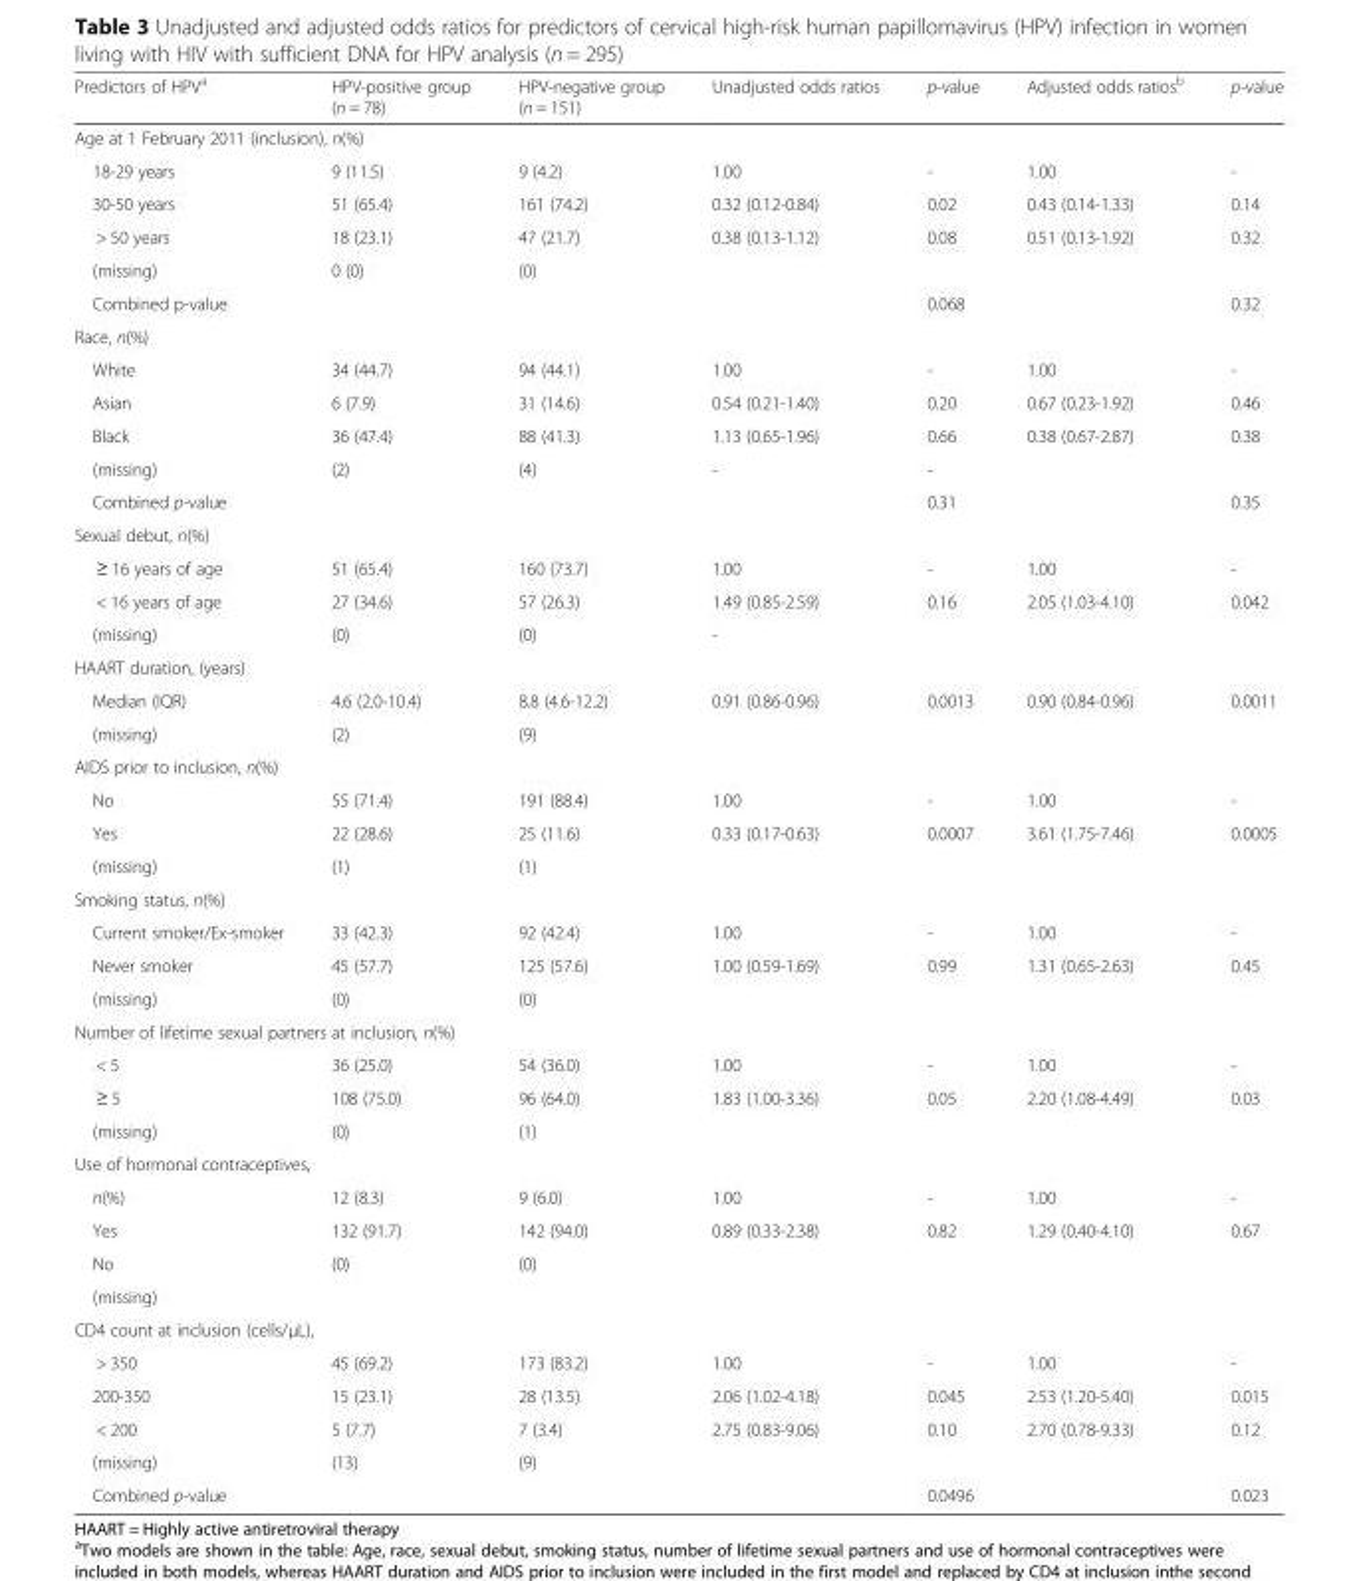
<table><thead><tr><td>Predictors of HPV<sup>a</sup></td><td>HPV-positive group (n = 78)</td><td>HPV-negative group (n = 151)</td><td>Unadjusted odds ratios</td><td>p-value</td><td>Adjusted odds ratios<sup>b</sup></td><td>p-value</td></tr></thead><tbody><tr><td colspan="7">Age at 1 February 2011 (inclusion), n(%)</td></tr><tr><td>18-29 years</td><td>9 (11.5)</td><td>9 (4.2)</td><td>1.00</td><td>-</td><td>1.00</td><td>-</td></tr><tr><td>30-50 years</td><td>51 (65.4)</td><td>161 (74.2)</td><td>0.32 (0.12-0.84)</td><td>0.02</td><td>0.43 (0.14-1.33)</td><td>0.14</td></tr><tr><td>&gt; 50 years</td><td>18 (23.1)</td><td>47 (21.7)</td><td>0.38 (0.13-1.12)</td><td>0.08</td><td>0.51 (0.13-1.92)</td><td>0.32</td></tr><tr><td>(missing)</td><td>0 (0)</td><td>(0)</td><td></td><td></td><td></td><td></td></tr><tr><td>Combined p-value</td><td></td><td></td><td></td><td>0.068</td><td></td><td>0.32</td></tr><tr><td colspan="7">Race, n(%)</td></tr><tr><td>White</td><td>34 (44.7)</td><td>94 (44.1)</td><td>1.00</td><td>-</td><td>1.00</td><td>-</td></tr><tr><td>Asian</td><td>6 (7.9)</td><td>31 (14.6)</td><td>0.54 (0.21-1.40)</td><td>0.20</td><td>0.67 (0.23-1.92)</td><td>0.46</td></tr><tr><td>Black</td><td>36 (47.4)</td><td>88 (41.3)</td><td>1.13 (0.65-1.96)</td><td>0.66</td><td>0.38 (0.67-2.87)</td><td>0.38</td></tr><tr><td>(missing)</td><td>(2)</td><td>(4)</td><td>-</td><td>-</td><td></td><td></td></tr><tr><td>Combined p-value</td><td></td><td></td><td></td><td>0.31</td><td></td><td>0.35</td></tr><tr><td colspan="7">Sexual debut, n(%)</td></tr><tr><td>≥ 16 years of age</td><td>51 (65.4)</td><td>160 (73.7)</td><td>1.00</td><td>-</td><td>1.00</td><td>-</td></tr><tr><td>&lt; 16 years of age</td><td>27 (34.6)</td><td>57 (26.3)</td><td>1.49 (0.85-2.59)</td><td>0.16</td><td>2.05 (1.03-4.10)</td><td>0.042</td></tr><tr><td>(missing)</td><td>(0)</td><td>(0)</td><td>-</td><td></td><td></td><td></td></tr><tr><td colspan="7">HAART duration, (years)</td></tr><tr><td>Median (IQR)</td><td>4.6 (2.0-10.4)</td><td>8.8 (4.6-12.2)</td><td>0.91 (0.86-0.96)</td><td>0.0013</td><td>0.90 (0.84-0.96)</td><td>0.0011</td></tr><tr><td>(missing)</td><td>(2)</td><td>(9)</td><td></td><td></td><td></td><td></td></tr><tr><td colspan="7">AIDS prior to inclusion, n(%)</td></tr><tr><td>No</td><td>55 (71.4)</td><td>191 (88.4)</td><td>1.00</td><td>-</td><td>1.00</td><td>-</td></tr><tr><td>Yes</td><td>22 (28.6)</td><td>25 (11.6)</td><td>0.33 (0.17-0.63)</td><td>0.0007</td><td>3.61 (1.75-7.46)</td><td>0.0005</td></tr><tr><td>(missing)</td><td>(1)</td><td>(1)</td><td></td><td></td><td></td><td></td></tr><tr><td colspan="7">Smoking status, n(%)</td></tr><tr><td>Current smoker/Ex-smoker</td><td>33 (42.3)</td><td>92 (42.4)</td><td>1.00</td><td>-</td><td>1.00</td><td>-</td></tr><tr><td>Never smoker</td><td>45 (57.7)</td><td>125 (57.6)</td><td>1.00 (0.59-1.69)</td><td>0.99</td><td>1.31 (0.65-2.63)</td><td>0.45</td></tr><tr><td>(missing)</td><td>(0)</td><td>(0)</td><td></td><td></td><td></td><td></td></tr><tr><td colspan="7">Number of lifetime sexual partners at inclusion, n(%)</td></tr><tr><td>&lt; 5</td><td>36 (25.0)</td><td>54 (36.0)</td><td>1.00</td><td>-</td><td>1.00</td><td>-</td></tr><tr><td>≥ 5</td><td>108 (75.0)</td><td>96 (64.0)</td><td>1.83 (1.00-3.36)</td><td>0.05</td><td>2.20 (1.08-4.49)</td><td>0.03</td></tr><tr><td>(missing)</td><td>(0)</td><td>(1)</td><td></td><td></td><td></td><td></td></tr><tr><td colspan="7">Use of hormonal contraceptives,</td></tr><tr><td>n(%)</td><td>12 (8.3)</td><td>9 (6.0)</td><td>1.00</td><td>-</td><td>1.00</td><td>-</td></tr><tr><td>Yes</td><td>132 (91.7)</td><td>142 (94.0)</td><td>0.89 (0.33-2.38)</td><td>0.82</td><td>1.29 (0.40-4.10)</td><td>0.67</td></tr><tr><td>No</td><td>(0)</td><td>(0)</td><td></td><td></td><td></td><td></td></tr><tr><td colspan="7">(missing)</td></tr><tr><td colspan="7">CD4 count at inclusion (cells/μL),</td></tr><tr><td>&gt; 350</td><td>45 (69.2)</td><td>173 (83.2)</td><td>1.00</td><td>-</td><td>1.00</td><td>-</td></tr><tr><td>200-350</td><td>15 (23.1)</td><td>28 (13.5)</td><td>2.06 (1.02-4.18)</td><td>0.045</td><td>2.53 (1.20-5.40)</td><td>0.015</td></tr><tr><td>&lt; 200</td><td>5 (7.7)</td><td>7 (3.4)</td><td>2.75 (0.83-9.06)</td><td>0.10</td><td>2.70 (0.78-9.33)</td><td>0.12</td></tr><tr><td>(missing)</td><td>(13)</td><td>(9)</td><td></td><td></td><td></td><td></td></tr><tr><td>Combined p-value</td><td></td><td></td><td></td><td>0.0496</td><td></td><td>0.023</td></tr></tbody></table>